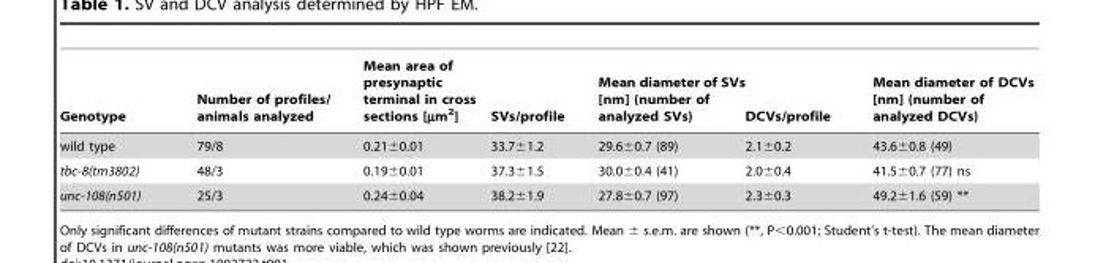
<table><thead><tr><td>Genotype</td><td>Number of profiles/ animals analyzed</td><td>Mean area of presynaptic terminal in cross sections [µm<sup>2</sup>]</td><td>SVs/profile</td><td>Mean diameter of SVs [nm] (number of analyzed SVs)</td><td>DCVs/profile</td><td>Mean diameter of DCVs [nm] (number of analyzed DCVs)</td></tr></thead><tbody><tr><td>wild type</td><td>79/8</td><td>0.21±0.01</td><td>33.7±1.2</td><td>29.6±0.7 (89)</td><td>2.1±0.2</td><td>43.6±0.8 (49)</td></tr><tr><td>tbc-8(tm3802)</td><td>48/3</td><td>0.19±0.01</td><td>37.3±1.5</td><td>30.0±0.4 (41)</td><td>2.0±0.4</td><td>41.5±0.7 (77) ns</td></tr><tr><td>unc-108(n501)</td><td>25/3</td><td>0.24±0.04</td><td>38.2±1.9</td><td>27.8±0.7 (97)</td><td>2.3±0.3</td><td>49.2±1.6 (59) **</td></tr></tbody></table>